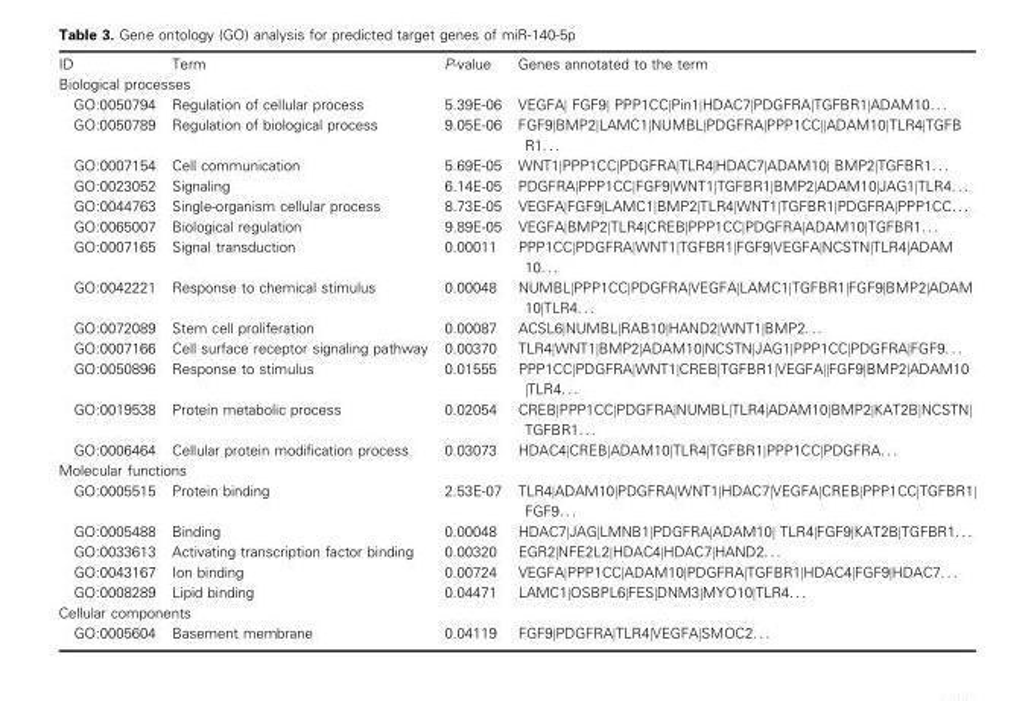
<table><tbody><tr><td>ID</td><td>Term</td><td>P-value</td><td>Genes annotated to the term</td></tr><tr><td colspan="4">Biological processes</td></tr><tr><td>GO:0050794</td><td>Regulation of cellular process</td><td>5.39E-06</td><td>VEGFA| FGF9| PPP1CC|Pin1|HDAC7|PDGFRA|TGFBR1|ADAM10. . .</td></tr><tr><td>GO:0050789</td><td>Regulation of biological process</td><td>9.05E-06</td><td>FGF9|BMP2|LAMC1|NUMBL|PDGFRA|PPP1CC||ADAM10|TLR4|TGFB R1. . .</td></tr><tr><td>GO:0007154</td><td>Cell communication</td><td>5.69E-05</td><td>WNT1|PPP1CC|PDGFRA|TLR4|HDAC7|ADAM10| BMP2|TGFBR1. . .</td></tr><tr><td>GO:0023052</td><td>Signaling</td><td>6.14E-05</td><td>PDGFRA|PPP1CC|FGF9|WNT1|TGFBR1|BMP2|ADAM10|JAG1|TLR4. . .</td></tr><tr><td>GO:0044763</td><td>Single-organism cellular process</td><td>8.73E-05</td><td>VEGFA|FGF9|LAMC1|BMP2|TLR4|WNT1|TGFBR1|PDGFRA|PPP1CC. . .</td></tr><tr><td>GO:0065007</td><td>Biological regulation</td><td>9.89E-05</td><td>VEGFA|BMP2|TLR4|CREB|PPP1CC|PDGFRA|ADAM10|TGFBR1. . .</td></tr><tr><td>GO:0007165</td><td>Signal transduction</td><td>0.00011</td><td>PPP1CC|PDGFRA|WNT1|TGFBR1|FGF9|VEGFA|NCSTN|TLR4|ADAM 10. . .</td></tr><tr><td>GO:0042221</td><td>Response to chemical stimulus</td><td>0.00048</td><td>NUMBL|PPP1CC|PDGFRA|VEGFA|LAMC1|TGFBR1|FGF9|BMP2|ADAM 10|TLR4. . .</td></tr><tr><td>GO:0072089</td><td>Stem cell proliferation</td><td>0.00087</td><td>ACSL6|NUMBL|RAB10|HAND2|WNT1|BMP2. . .</td></tr><tr><td>GO:0007166</td><td>Cell surface receptor signaling pathway</td><td>0.00370</td><td>TLR4|WNT1|BMP2|ADAM10|NCSTN|JAG1|PPP1CC|PDGFRA|FGF9. . .</td></tr><tr><td>GO:0050896</td><td>Response to stimulus</td><td>0.01555</td><td>PPP1CC|PDGFRA|WNT1|CREB|TGFBR1|VEGFA||FGF9|BMP2|ADAM10 |TLR4. . .</td></tr><tr><td>GO:0019538</td><td>Protein metabolic process</td><td>0.02054</td><td>CREB|PPP1CC|PDGFRA|NUMBL|TLR4|ADAM10|BMP2|KAT2B|NCSTN| TGFBR1. . .</td></tr><tr><td>GO:0006464</td><td>Cellular protein modification process</td><td>0.03073</td><td>HDAC4|CREB|ADAM10|TLR4|TGFBR1|PPP1CC|PDGFRA. . .</td></tr><tr><td colspan="4">Molecular functions</td></tr><tr><td>GO:0005515</td><td>Protein binding</td><td>2.53E-07</td><td>TLR4|ADAM10|PDGFRA|WNT1|HDAC7|VEGFA|CREB|PPP1CC|TGFBR1| FGF9. . .</td></tr><tr><td>GO:0005488</td><td>Binding</td><td>0.00048</td><td>HDAC7|JAG|LMNB1|PDGFRA|ADAM10| TLR4|FGF9|KAT2B|TGFBR1. . .</td></tr><tr><td>GO:0033613</td><td>Activating transcription factor binding</td><td>0.00320</td><td>EGR2|NFE2L2|HDAC4|HDAC7|HAND2. . .</td></tr><tr><td>GO:0043167</td><td>Ion binding</td><td>0.00724</td><td>VEGFA|PPP1CC|ADAM10|PDGFRA|TGFBR1|HDAC4|FGF9|HDAC7. . .</td></tr><tr><td>GO:0008289</td><td>Lipid binding</td><td>0.04471</td><td>LAMC1|OSBPL6|FES|DNM3|MYO10|TLR4. . .</td></tr><tr><td colspan="4">Cellular components</td></tr><tr><td>GO:0005604</td><td>Basement membrane</td><td>0.04119</td><td>FGF9|PDGFRA|TLR4|VEGFA|SMOC2. . .</td></tr></tbody></table>